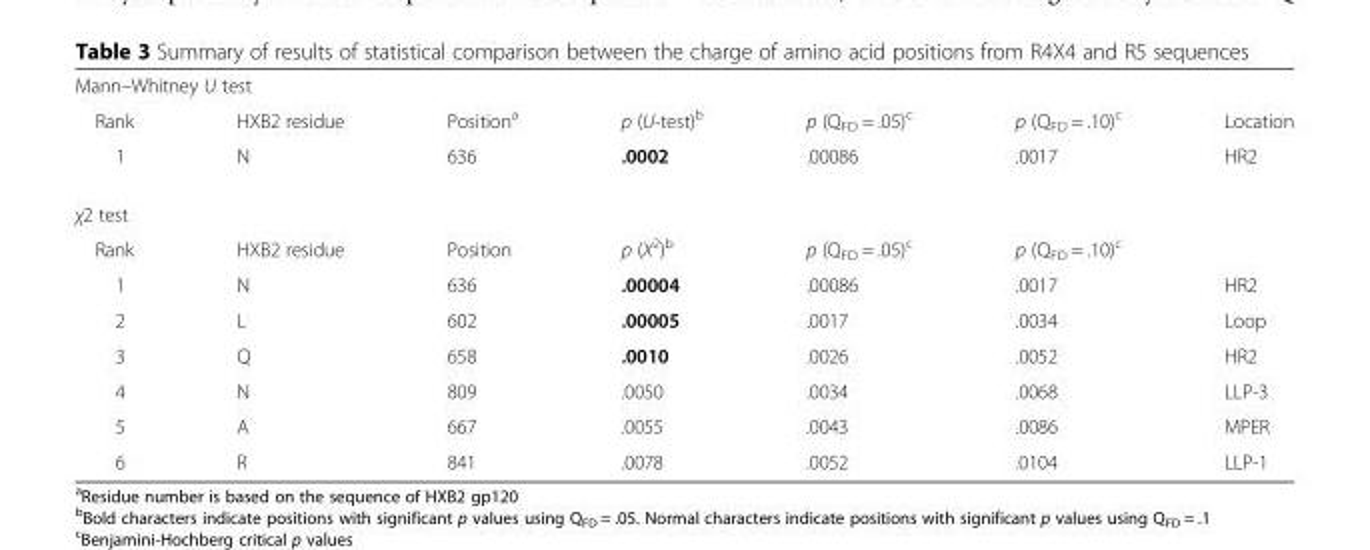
<table><tbody><tr><td colspan="7">Mann–Whitney U test</td></tr><tr><td>Rank</td><td>HXB2 residue</td><td>Position<sup>a</sup></td><td>p (U-test)<sup>b</sup></td><td>p (Q<sub>FD</sub> = .05)<sup>c</sup></td><td>p (Q<sub>FD</sub> = .10)<sup>c</sup></td><td>Location</td></tr><tr><td>1</td><td>N</td><td>636</td><td>.0002</td><td>.00086</td><td>.0017</td><td>HR2</td></tr><tr><td colspan="7">χ2 test</td></tr><tr><td>Rank</td><td>HXB2 residue</td><td>Position</td><td>p (X<sup>2</sup>)<sup>b</sup></td><td>p (Q<sub>FD</sub> = .05)<sup>c</sup></td><td>p (Q<sub>FD</sub> = .10)<sup>c</sup></td><td></td></tr><tr><td>1</td><td>N</td><td>636</td><td>.00004</td><td>.00086</td><td>.0017</td><td>HR2</td></tr><tr><td>2</td><td>L</td><td>602</td><td>.00005</td><td>.0017</td><td>.0034</td><td>Loop</td></tr><tr><td>3</td><td>Q</td><td>658</td><td>.0010</td><td>.0026</td><td>.0052</td><td>HR2</td></tr><tr><td>4</td><td>N</td><td>809</td><td>.0050</td><td>.0034</td><td>.0068</td><td>LLP-3</td></tr><tr><td>5</td><td>A</td><td>667</td><td>.0055</td><td>.0043</td><td>.0086</td><td>MPER</td></tr><tr><td>6</td><td>R</td><td>841</td><td>.0078</td><td>.0052</td><td>.0104</td><td>LLP-1</td></tr></tbody></table>